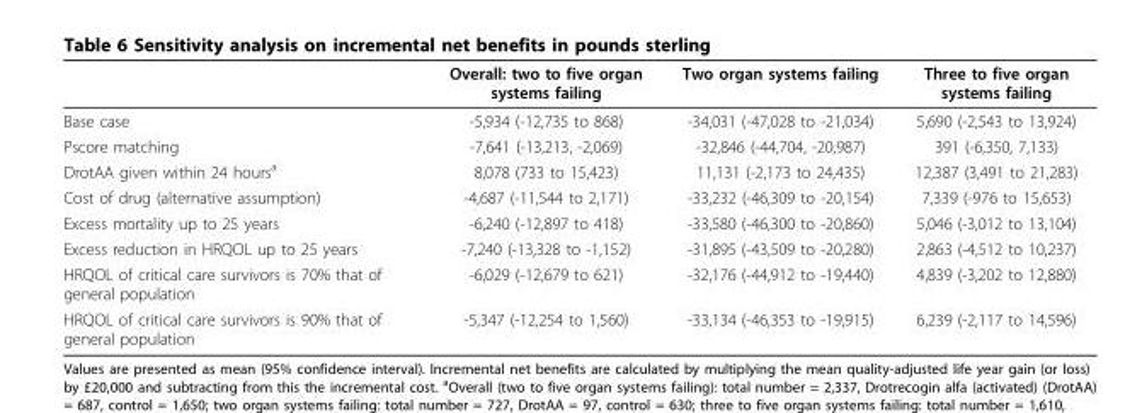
<table><thead><tr><td></td><td>Overall: two to five organ systems failing</td><td>Two organ systems failing</td><td>Three to five organ systems failing</td></tr></thead><tbody><tr><td>Base case</td><td>-5,934 (-12,735 to 868)</td><td>-34,031 (-47,028 to -21,034)</td><td>5,690 (-2,543 to 13,924)</td></tr><tr><td>Pscore matching</td><td>-7,641 (-13,213, -2,069)</td><td>-32,846 (-44,704, -20,987)</td><td>391 (-6,350, 7,133)</td></tr><tr><td>DrotAA given within 24 hours<sup>a</sup></td><td>8,078 (733 to 15,423)</td><td>11,131 (-2,173 to 24,435)</td><td>12,387 (3,491 to 21,283)</td></tr><tr><td>Cost of drug (alternative assumption)</td><td>-4,687 (-11,544 to 2,171)</td><td>-33,232 (-46,309 to -20,154)</td><td>7,339 (-976 to 15,653)</td></tr><tr><td>Excess mortality up to 25 years</td><td>-6,240 (-12,897 to 418)</td><td>-33,580 (-46,300 to -20,860)</td><td>5,046 (-3,012 to 13,104)</td></tr><tr><td>Excess reduction in HRQOL up to 25 years</td><td>-7,240 (-13,328 to -1,152)</td><td>-31,895 (-43,509 to -20,280)</td><td>2,863 (-4,512 to 10,237)</td></tr><tr><td>HRQOL of critical care survivors is 70% that of general population</td><td>-6,029 (-12,679 to 621)</td><td>-32,176 (-44,912 to -19,440)</td><td>4,839 (-3,202 to 12,880)</td></tr><tr><td>HRQOL of critical care survivors is 90% that of general population</td><td>-5,347 (-12,254 to 1,560)</td><td>-33,134 (-46,353 to -19,915)</td><td>6,239 (-2,117 to 14,596)</td></tr></tbody></table>